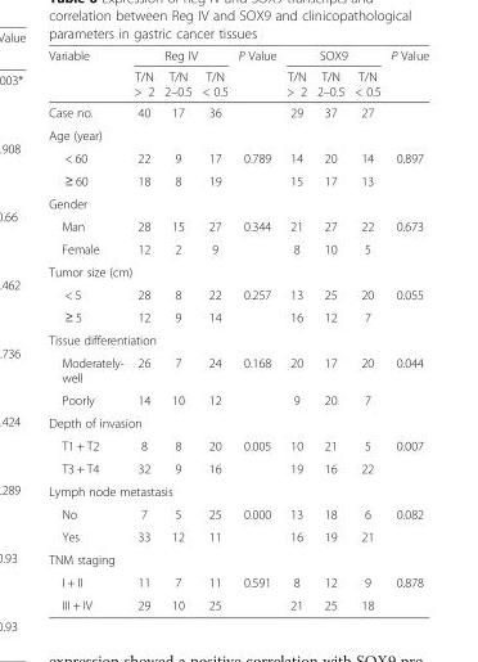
<table><thead><tr><td rowspan="2">Variable</td><td colspan="3">Reg IV</td><td rowspan="2">P Value</td><td colspan="3">SOX9</td><td rowspan="2">P Value</td></tr><tr><td>T/N &gt; 2</td><td>T/N 2–0.5</td><td>T/N &lt; 0.5</td><td>T/N &gt; 2</td><td>T/N 2–0.5</td><td>T/N &lt; 0.5</td></tr></thead><tbody><tr><td>Case no.</td><td>40</td><td>17</td><td>36</td><td></td><td>29</td><td>37</td><td>27</td><td></td></tr><tr><td colspan="9">Age (year)</td></tr><tr><td>&lt; 60</td><td>22</td><td>9</td><td>17</td><td rowspan="2">0.789</td><td>14</td><td>20</td><td>14</td><td rowspan="2">0.897</td></tr><tr><td>≥ 60</td><td>18</td><td>8</td><td>19</td><td>15</td><td>17</td><td>13</td></tr><tr><td colspan="9">Gender</td></tr><tr><td>Man</td><td>28</td><td>15</td><td>27</td><td rowspan="2">0.344</td><td>21</td><td>27</td><td>22</td><td rowspan="2">0.673</td></tr><tr><td>Female</td><td>12</td><td>2</td><td>9</td><td>8</td><td>10</td><td>5</td></tr><tr><td colspan="9">Tumor size (cm)</td></tr><tr><td>&lt; 5</td><td>28</td><td>8</td><td>22</td><td rowspan="2">0.257</td><td>13</td><td>25</td><td>20</td><td rowspan="2">0.055</td></tr><tr><td>≥ 5</td><td>12</td><td>9</td><td>14</td><td>16</td><td>12</td><td>7</td></tr><tr><td colspan="9">Tissue differentiation</td></tr><tr><td>Moderately- well</td><td>26</td><td>7</td><td>24</td><td rowspan="2">0.168</td><td>20</td><td>17</td><td>20</td><td rowspan="2">0.044</td></tr><tr><td>Poorly</td><td>14</td><td>10</td><td>12</td><td>9</td><td>20</td><td>7</td></tr><tr><td colspan="9">Depth of invasion</td></tr><tr><td>T1 + T2</td><td>8</td><td>8</td><td>20</td><td rowspan="2">0.005</td><td>10</td><td>21</td><td>5</td><td rowspan="2">0.007</td></tr><tr><td>T3 + T4</td><td>32</td><td>9</td><td>16</td><td>19</td><td>16</td><td>22</td></tr><tr><td colspan="9">Lymph node metastasis</td></tr><tr><td>No</td><td>7</td><td>5</td><td>25</td><td rowspan="2">0.000</td><td>13</td><td>18</td><td>6</td><td rowspan="2">0.082</td></tr><tr><td>Yes</td><td>33</td><td>12</td><td>11</td><td>16</td><td>19</td><td>21</td></tr><tr><td colspan="9">TNM staging</td></tr><tr><td>I + II</td><td>11</td><td>7</td><td>11</td><td rowspan="2">0.591</td><td>8</td><td>12</td><td>9</td><td rowspan="2">0.878</td></tr><tr><td>III + IV</td><td>29</td><td>10</td><td>25</td><td>21</td><td>25</td><td>18</td></tr></tbody></table>